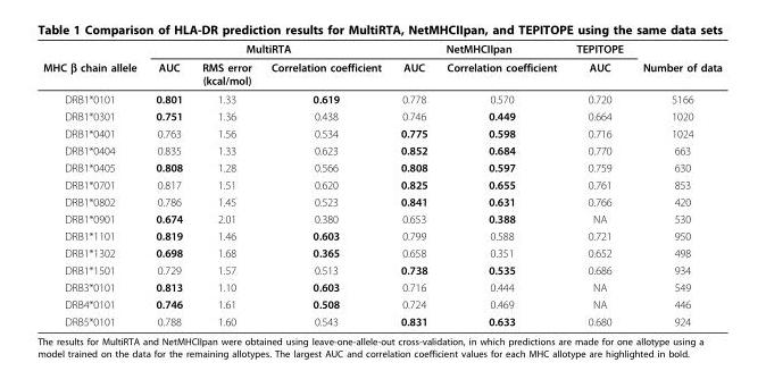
<table><thead><tr><td rowspan="2">MHC β chain allele</td><td colspan="3">MultiRTA</td><td colspan="2">NetMHCIIpan</td><td rowspan="2">TEPITOPE AUC</td><td rowspan="2">Number of data</td></tr><tr><td>AUC</td><td>RMS error (kcal/mol)</td><td>Correlation coefficient</td><td>AUC</td><td>Correlation coefficient</td></tr></thead><tbody><tr><td>DRB1*0101</td><td>0.801</td><td>1.33</td><td>0.619</td><td>0.778</td><td>0.570</td><td>0.720</td><td>5166</td></tr><tr><td>DRB1*0301</td><td>0.751</td><td>1.36</td><td>0.438</td><td>0.746</td><td>0.449</td><td>0.664</td><td>1020</td></tr><tr><td>DRB1*0401</td><td>0.763</td><td>1.56</td><td>0.534</td><td>0.775</td><td>0.598</td><td>0.716</td><td>1024</td></tr><tr><td>DRB1*0404</td><td>0.835</td><td>1.33</td><td>0.623</td><td>0.852</td><td>0.684</td><td>0.770</td><td>663</td></tr><tr><td>DRB1*0405</td><td>0.808</td><td>1.28</td><td>0.566</td><td>0.808</td><td>0.597</td><td>0.759</td><td>630</td></tr><tr><td>DRB1*0701</td><td>0.817</td><td>1.51</td><td>0.620</td><td>0.825</td><td>0.655</td><td>0.761</td><td>853</td></tr><tr><td>DRB1*0802</td><td>0.786</td><td>1.45</td><td>0.523</td><td>0.841</td><td>0.631</td><td>0.766</td><td>420</td></tr><tr><td>DRB1*0901</td><td>0.674</td><td>2.01</td><td>0.380</td><td>0.653</td><td>0.388</td><td>NA</td><td>530</td></tr><tr><td>DRB1*1101</td><td>0.819</td><td>1.46</td><td>0.603</td><td>0.799</td><td>0.588</td><td>0.721</td><td>950</td></tr><tr><td>DRB1*1302</td><td>0.698</td><td>1.68</td><td>0.365</td><td>0.658</td><td>0.351</td><td>0.652</td><td>498</td></tr><tr><td>DRB1*1501</td><td>0.729</td><td>1.57</td><td>0.513</td><td>0.738</td><td>0.535</td><td>0.686</td><td>934</td></tr><tr><td>DRB3*0101</td><td>0.813</td><td>1.10</td><td>0.603</td><td>0.716</td><td>0.444</td><td>NA</td><td>549</td></tr><tr><td>DRB4*0101</td><td>0.746</td><td>1.61</td><td>0.508</td><td>0.724</td><td>0.469</td><td>NA</td><td>446</td></tr><tr><td>DRB5*0101</td><td>0.788</td><td>1.60</td><td>0.543</td><td>0.831</td><td>0.633</td><td>0.680</td><td>924</td></tr></tbody></table>